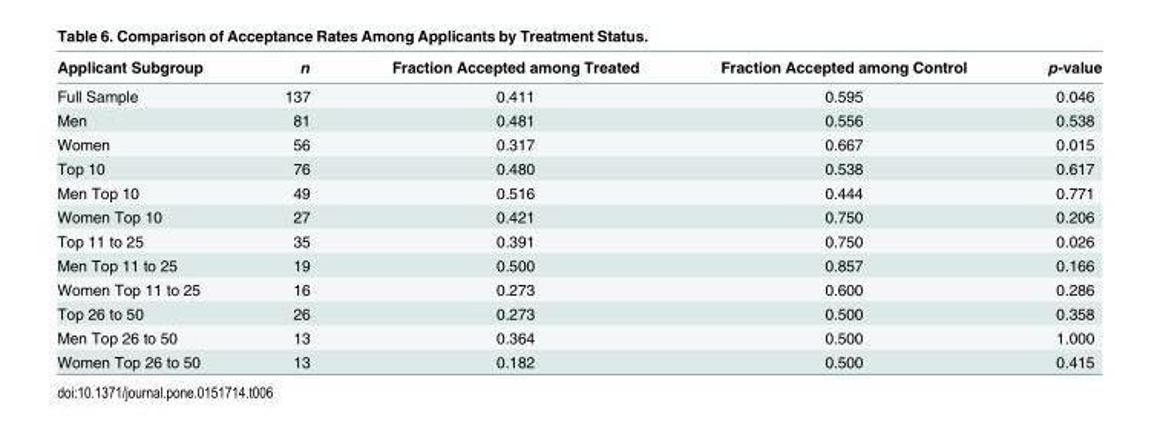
<table><thead><tr><td>Applicant Subgroup</td><td>n</td><td>Fraction Accepted among Treated</td><td>Fraction Accepted among Control</td><td>p-value</td></tr></thead><tbody><tr><td>Full Sample</td><td>137</td><td>0.411</td><td>0.595</td><td>0.046</td></tr><tr><td>Men</td><td>81</td><td>0.481</td><td>0.556</td><td>0.538</td></tr><tr><td>Women</td><td>56</td><td>0.317</td><td>0.667</td><td>0.015</td></tr><tr><td>Top 10</td><td>76</td><td>0.480</td><td>0.538</td><td>0.617</td></tr><tr><td>Men Top 10</td><td>49</td><td>0.516</td><td>0.444</td><td>0.771</td></tr><tr><td>Women Top 10</td><td>27</td><td>0.421</td><td>0.750</td><td>0.206</td></tr><tr><td>Top 11 to 25</td><td>35</td><td>0.391</td><td>0.750</td><td>0.026</td></tr><tr><td>Men Top 11 to 25</td><td>19</td><td>0.500</td><td>0.857</td><td>0.166</td></tr><tr><td>Women Top 11 to 25</td><td>16</td><td>0.273</td><td>0.600</td><td>0.286</td></tr><tr><td>Top 26 to 50</td><td>26</td><td>0.273</td><td>0.500</td><td>0.358</td></tr><tr><td>Men Top 26 to 50</td><td>13</td><td>0.364</td><td>0.500</td><td>1.000</td></tr><tr><td>Women Top 26 to 50</td><td>13</td><td>0.182</td><td>0.500</td><td>0.415</td></tr></tbody></table>